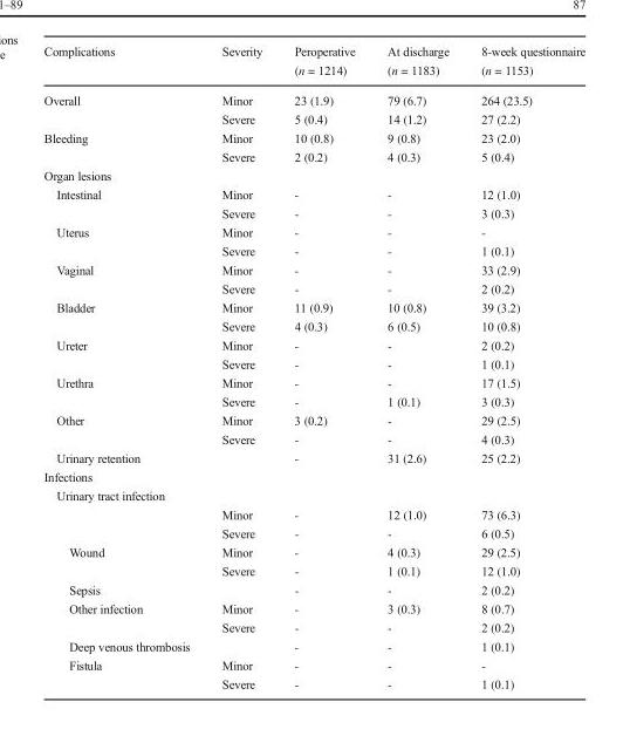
<table><thead><tr><td>Complications</td><td>Severity</td><td>Peroperative (n = 1214)</td><td>At discharge (n = 1183)</td><td>8-week questionnaire (n = 1153)</td></tr></thead><tbody><tr><td rowspan="2">Overall</td><td>Minor</td><td>23 (1.9)</td><td>79 (6.7)</td><td>264 (23.5)</td></tr><tr><td>Severe</td><td>5 (0.4)</td><td>14 (1.2)</td><td>27 (2.2)</td></tr><tr><td rowspan="2">Bleeding</td><td>Minor</td><td>10 (0.8)</td><td>9 (0.8)</td><td>23 (2.0)</td></tr><tr><td>Severe</td><td>2 (0.2)</td><td>4 (0.3)</td><td>5 (0.4)</td></tr><tr><td colspan="5">Organ lesions</td></tr><tr><td rowspan="2">Intestinal</td><td>Minor</td><td>-</td><td>-</td><td>12 (1.0)</td></tr><tr><td>Severe</td><td>-</td><td>-</td><td>3 (0.3)</td></tr><tr><td rowspan="2">Uterus</td><td>Minor</td><td>-</td><td>-</td><td>-</td></tr><tr><td>Severe</td><td>-</td><td>-</td><td>1 (0.1)</td></tr><tr><td rowspan="2">Vaginal</td><td>Minor</td><td>-</td><td>-</td><td>33 (2.9)</td></tr><tr><td>Severe</td><td>-</td><td>-</td><td>2 (0.2)</td></tr><tr><td rowspan="2">Bladder</td><td>Minor</td><td>11 (0.9)</td><td>10 (0.8)</td><td>39 (3.2)</td></tr><tr><td>Severe</td><td>4 (0.3)</td><td>6 (0.5)</td><td>10 (0.8)</td></tr><tr><td rowspan="2">Ureter</td><td>Minor</td><td>-</td><td>-</td><td>2 (0.2)</td></tr><tr><td>Severe</td><td>-</td><td>-</td><td>1 (0.1)</td></tr><tr><td rowspan="2">Urethra</td><td>Minor</td><td>-</td><td>-</td><td>17 (1.5)</td></tr><tr><td>Severe</td><td>-</td><td>1 (0.1)</td><td>3 (0.3)</td></tr><tr><td rowspan="2">Other</td><td>Minor</td><td>3 (0.2)</td><td>-</td><td>29 (2.5)</td></tr><tr><td>Severe</td><td>-</td><td>-</td><td>4 (0.3)</td></tr><tr><td>Urinary retention</td><td></td><td>-</td><td>31 (2.6)</td><td>25 (2.2)</td></tr><tr><td colspan="5">Infections</td></tr><tr><td colspan="5">Urinary tract infection</td></tr><tr><td rowspan="2"></td><td>Minor</td><td>-</td><td>12 (1.0)</td><td>73 (6.3)</td></tr><tr><td>Severe</td><td>-</td><td>-</td><td>6 (0.5)</td></tr><tr><td rowspan="2">Wound</td><td>Minor</td><td>-</td><td>4 (0.3)</td><td>29 (2.5)</td></tr><tr><td>Severe</td><td>-</td><td>1 (0.1)</td><td>12 (1.0)</td></tr><tr><td>Sepsis</td><td></td><td>-</td><td>-</td><td>2 (0.2)</td></tr><tr><td rowspan="2">Other infection</td><td>Minor</td><td>-</td><td>3 (0.3)</td><td>8 (0.7)</td></tr><tr><td>Severe</td><td>-</td><td>-</td><td>2 (0.2)</td></tr><tr><td>Deep venous thrombosis</td><td></td><td>-</td><td>-</td><td>1 (0.1)</td></tr><tr><td rowspan="2">Fistula</td><td>Minor</td><td>-</td><td>-</td><td>-</td></tr><tr><td>Severe</td><td>-</td><td>-</td><td>1 (0.1)</td></tr></tbody></table>